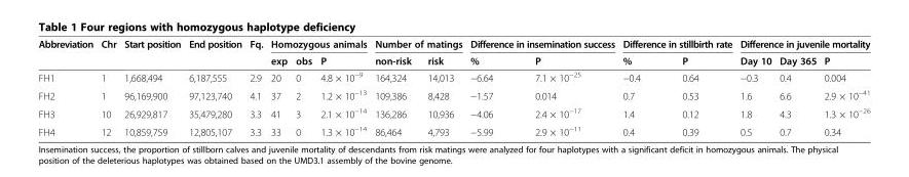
<table><thead><tr><td rowspan="2">Abbreviation</td><td rowspan="2">Chr</td><td rowspan="2">Start position</td><td rowspan="2">End position</td><td rowspan="2">Fq.</td><td colspan="3">Homozygous animals</td><td colspan="2">Number of matings</td><td colspan="2">Difference in insemination success</td><td colspan="2">Difference in stillbirth rate</td><td colspan="3">Difference in juvenile mortality</td></tr><tr><td>exp</td><td>obs</td><td>P</td><td>non-risk</td><td>risk</td><td>%</td><td>P</td><td>%</td><td>P</td><td>Day 10</td><td>Day 365</td><td>P</td></tr></thead><tbody><tr><td>FH1</td><td>1</td><td>1,668,494</td><td>6,187,555</td><td>2.9</td><td>20</td><td>0</td><td>4.8 × 10<sup>−9</sup></td><td>164,324</td><td>14,013</td><td>−6.64</td><td>7.1 × 10<sup>−25</sup></td><td>−0.4</td><td>0.64</td><td>−0.3</td><td>0.4</td><td>0.004</td></tr><tr><td>FH2</td><td>1</td><td>96,169,900</td><td>97,123,740</td><td>4.1</td><td>37</td><td>2</td><td>1.2 × 10<sup>−13</sup></td><td>109,386</td><td>8,428</td><td>−1.57</td><td>0.014</td><td>0.7</td><td>0.53</td><td>1.6</td><td>6.6</td><td>2.9 × 10<sup>−41</sup></td></tr><tr><td>FH3</td><td>10</td><td>26,929,817</td><td>35,479,280</td><td>3.3</td><td>41</td><td>3</td><td>2.1 × 10<sup>−14</sup></td><td>136,286</td><td>10,936</td><td>−4.06</td><td>2.4 × 10<sup>−17</sup></td><td>1.4</td><td>0.12</td><td>1.8</td><td>4.3</td><td>1.3 × 10<sup>−26</sup></td></tr><tr><td>FH4</td><td>12</td><td>10,859,759</td><td>12,805,107</td><td>3.3</td><td>33</td><td>0</td><td>1.3 × 10<sup>−14</sup></td><td>86,464</td><td>4,793</td><td>−5.99</td><td>2.9 × 10<sup>−11</sup></td><td>0.4</td><td>0.39</td><td>0.5</td><td>0.7</td><td>0.34</td></tr></tbody></table>